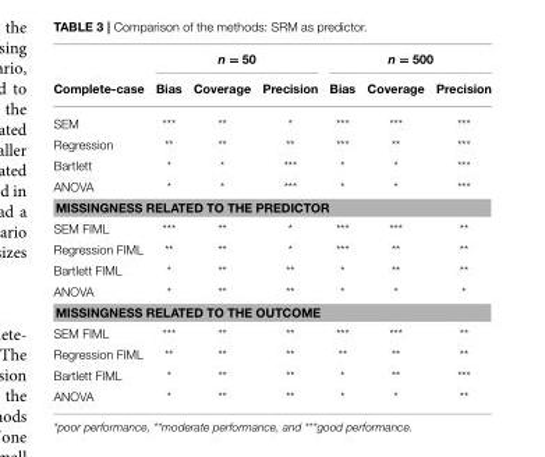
<table><thead><tr><td rowspan="2">Complete-case</td><td colspan="3">n = 50</td><td colspan="3">n = 500</td></tr><tr><td>Bias</td><td>Coverage</td><td>Precision</td><td>Bias</td><td>Coverage</td><td>Precision</td></tr></thead><tbody><tr><td>SEM</td><td>***</td><td>**</td><td>*</td><td>***</td><td>***</td><td>***</td></tr><tr><td>Regression</td><td>**</td><td>**</td><td>**</td><td>***</td><td>**</td><td>***</td></tr><tr><td>Bartlett</td><td>*</td><td>*</td><td>***</td><td>*</td><td>*</td><td>***</td></tr><tr><td>ANOVA</td><td>*</td><td>*</td><td>***</td><td>*</td><td>*</td><td>***</td></tr><tr><td colspan="7">MISSINGNESS RELATED TO THE PREDICTOR</td></tr><tr><td>SEM FIML</td><td>***</td><td>**</td><td>*</td><td>***</td><td>***</td><td>**</td></tr><tr><td>Regression FIML</td><td>**</td><td>**</td><td>*</td><td>***</td><td>**</td><td>**</td></tr><tr><td>Bartlett FIML</td><td>*</td><td>**</td><td>**</td><td>*</td><td>**</td><td>**</td></tr><tr><td>ANOVA</td><td>*</td><td>**</td><td>**</td><td>*</td><td>*</td><td>*</td></tr><tr><td colspan="7">MISSINGNESS RELATED TO THE OUTCOME</td></tr><tr><td>SEM FIML</td><td>***</td><td>**</td><td>**</td><td>***</td><td>***</td><td>**</td></tr><tr><td>Regression FIML</td><td>**</td><td>**</td><td>**</td><td>**</td><td>**</td><td>**</td></tr><tr><td>Bartlett FIML</td><td>*</td><td>**</td><td>**</td><td>*</td><td>**</td><td>***</td></tr><tr><td>ANOVA</td><td>*</td><td>**</td><td>**</td><td>*</td><td>*</td><td>**</td></tr></tbody></table>